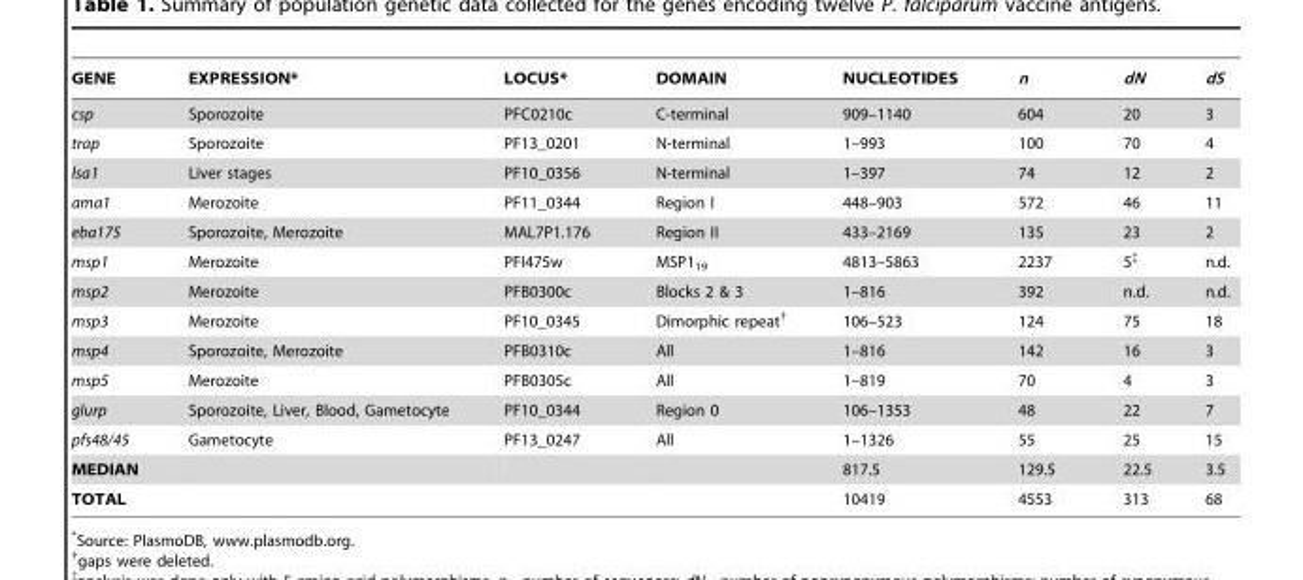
<table><thead><tr><td>GENE</td><td>EXPRESSION*</td><td>LOCUS*</td><td>DOMAIN</td><td>NUCLEOTIDES</td><td>n</td><td>dN</td><td>dS</td></tr></thead><tbody><tr><td>csp</td><td>Sporozoite</td><td>PFC0210c</td><td>C-terminal</td><td>909–1140</td><td>604</td><td>20</td><td>3</td></tr><tr><td>trap</td><td>Sporozoite</td><td>PF13_0201</td><td>N-terminal</td><td>1–993</td><td>100</td><td>70</td><td>4</td></tr><tr><td>lsa1</td><td>Liver stages</td><td>PF10_0356</td><td>N-terminal</td><td>1–397</td><td>74</td><td>12</td><td>2</td></tr><tr><td>ama1</td><td>Merozoite</td><td>PF11_0344</td><td>Region I</td><td>448–903</td><td>572</td><td>46</td><td>11</td></tr><tr><td>eba175</td><td>Sporozoite, Merozoite</td><td>MAL7P1.176</td><td>Region II</td><td>433–2169</td><td>135</td><td>23</td><td>2</td></tr><tr><td>msp1</td><td>Merozoite</td><td>PFI475w</td><td>MSP1<sub>19</sub></td><td>4813–5863</td><td>2237</td><td>5‡</td><td>n.d.</td></tr><tr><td>msp2</td><td>Merozoite</td><td>PFB0300c</td><td>Blocks 2 &amp; 3</td><td>1–816</td><td>392</td><td>n.d.</td><td>n.d.</td></tr><tr><td>msp3</td><td>Merozoite</td><td>PF10_0345</td><td>Dimorphic repeat†</td><td>106–523</td><td>124</td><td>75</td><td>18</td></tr><tr><td>msp4</td><td>Sporozoite, Merozoite</td><td>PFB0310c</td><td>All</td><td>1–816</td><td>142</td><td>16</td><td>3</td></tr><tr><td>msp5</td><td>Merozoite</td><td>PFB0305c</td><td>All</td><td>1–819</td><td>70</td><td>4</td><td>3</td></tr><tr><td>glurp</td><td>Sporozoite, Liver, Blood, Gametocyte</td><td>PF10_0344</td><td>Region 0</td><td>106–1353</td><td>48</td><td>22</td><td>7</td></tr><tr><td>pfs48/45</td><td>Gametocyte</td><td>PF13_0247</td><td>All</td><td>1–1326</td><td>55</td><td>25</td><td>15</td></tr><tr><td>MEDIAN</td><td></td><td></td><td></td><td>817.5</td><td>129.5</td><td>22.5</td><td>3.5</td></tr><tr><td>TOTAL</td><td></td><td></td><td></td><td>10419</td><td>4553</td><td>313</td><td>68</td></tr></tbody></table>